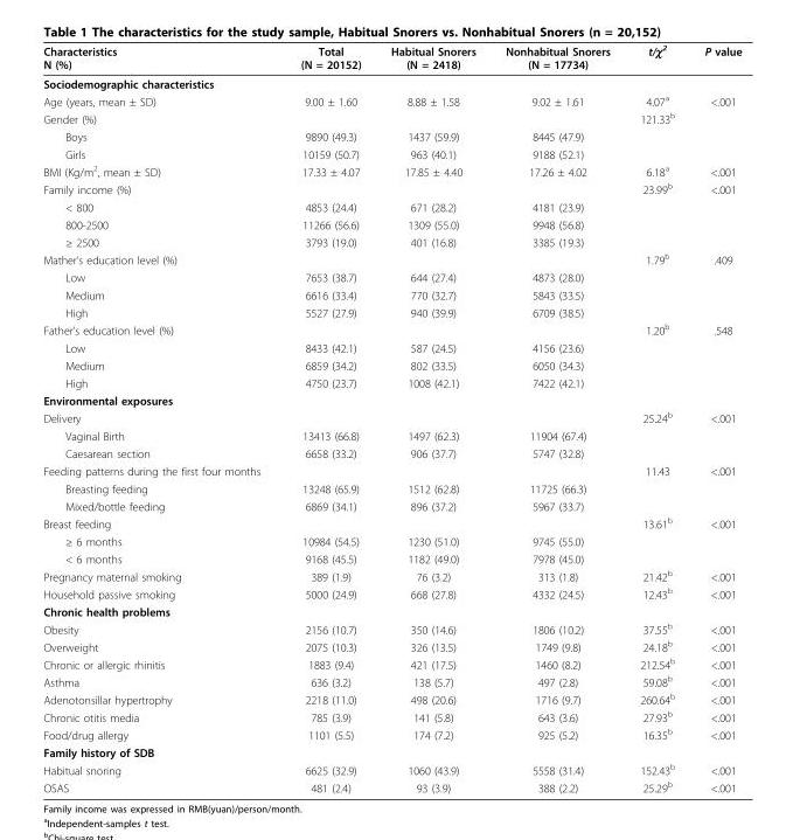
<table><thead><tr><td>Characteristics N (%)</td><td>Total (N = 20152)</td><td>Habitual Snorers (N = 2418)</td><td>Nonhabitual Snorers (N = 17734)</td><td>t/χ<sup>2</sup></td><td>P value</td></tr></thead><tbody><tr><td colspan="6">Sociodemographic characteristics</td></tr><tr><td>Age (years, mean ± SD)</td><td>9.00 ± 1.60</td><td>8.88 ± 1.58</td><td>9.02 ± 1.61</td><td>4.07<sup>a</sup></td><td>&lt;.001</td></tr><tr><td>Gender (%)</td><td></td><td></td><td></td><td>121.33<sup>b</sup></td><td></td></tr><tr><td>Boys</td><td>9890 (49.3)</td><td>1437 (59.9)</td><td>8445 (47.9)</td><td></td><td></td></tr><tr><td>Girls</td><td>10159 (50.7)</td><td>963 (40.1)</td><td>9188 (52.1)</td><td></td><td></td></tr><tr><td>BMI (Kg/m<sup>2</sup>, mean ± SD)</td><td>17.33 ± 4.07</td><td>17.85 ± 4.40</td><td>17.26 ± 4.02</td><td>6.18<sup>a</sup></td><td>&lt;.001</td></tr><tr><td>Family income (%)</td><td></td><td></td><td></td><td>23.99<sup>b</sup></td><td>&lt;.001</td></tr><tr><td>&lt; 800</td><td>4853 (24.4)</td><td>671 (28.2)</td><td>4181 (23.9)</td><td></td><td></td></tr><tr><td>800-2500</td><td>11266 (56.6)</td><td>1309 (55.0)</td><td>9948 (56.8)</td><td></td><td></td></tr><tr><td>≥ 2500</td><td>3793 (19.0)</td><td>401 (16.8)</td><td>3385 (19.3)</td><td></td><td></td></tr><tr><td>Mather’s education level (%)</td><td></td><td></td><td></td><td>1.79<sup>b</sup></td><td>.409</td></tr><tr><td>Low</td><td>7653 (38.7)</td><td>644 (27.4)</td><td>4873 (28.0)</td><td></td><td></td></tr><tr><td>Medium</td><td>6616 (33.4)</td><td>770 (32.7)</td><td>5843 (33.5)</td><td></td><td></td></tr><tr><td>High</td><td>5527 (27.9)</td><td>940 (39.9)</td><td>6709 (38.5)</td><td></td><td></td></tr><tr><td>Father’s education level (%)</td><td></td><td></td><td></td><td>1.20<sup>b</sup></td><td>.548</td></tr><tr><td>Low</td><td>8433 (42.1)</td><td>587 (24.5)</td><td>4156 (23.6)</td><td></td><td></td></tr><tr><td>Medium</td><td>6859 (34.2)</td><td>802 (33.5)</td><td>6050 (34.3)</td><td></td><td></td></tr><tr><td>High</td><td>4750 (23.7)</td><td>1008 (42.1)</td><td>7422 (42.1)</td><td></td><td></td></tr><tr><td colspan="6">Environmental exposures</td></tr><tr><td>Delivery</td><td></td><td></td><td></td><td>25.24<sup>b</sup></td><td>&lt;.001</td></tr><tr><td>Vaginal Birth</td><td>13413 (66.8)</td><td>1497 (62.3)</td><td>11904 (67.4)</td><td></td><td></td></tr><tr><td>Caesarean section</td><td>6658 (33.2)</td><td>906 (37.7)</td><td>5747 (32.8)</td><td></td><td></td></tr><tr><td>Feeding patterns during the first four months</td><td></td><td></td><td></td><td>11.43</td><td>&lt;.001</td></tr><tr><td>Breasting feeding</td><td>13248 (65.9)</td><td>1512 (62.8)</td><td>11725 (66.3)</td><td></td><td></td></tr><tr><td>Mixed/bottle feeding</td><td>6869 (34.1)</td><td>896 (37.2)</td><td>5967 (33.7)</td><td></td><td></td></tr><tr><td>Breast feeding</td><td></td><td></td><td></td><td>13.61<sup>b</sup></td><td>&lt;.001</td></tr><tr><td>≥ 6 months</td><td>10984 (54.5)</td><td>1230 (51.0)</td><td>9745 (55.0)</td><td></td><td></td></tr><tr><td>&lt; 6 months</td><td>9168 (45.5)</td><td>1182 (49.0)</td><td>7978 (45.0)</td><td></td><td></td></tr><tr><td>Pregnancy maternal smoking</td><td>389 (1.9)</td><td>76 (3.2)</td><td>313 (1.8)</td><td>21.42<sup>b</sup></td><td>&lt;.001</td></tr><tr><td>Household passive smoking</td><td>5000 (24.9)</td><td>668 (27.8)</td><td>4332 (24.5)</td><td>12.43<sup>b</sup></td><td>&lt;.001</td></tr><tr><td colspan="6">Chronic health problems</td></tr><tr><td>Obesity</td><td>2156 (10.7)</td><td>350 (14.6)</td><td>1806 (10.2)</td><td>37.55<sup>b</sup></td><td>&lt;.001</td></tr><tr><td>Overweight</td><td>2075 (10.3)</td><td>326 (13.5)</td><td>1749 (9.8)</td><td>24.18<sup>b</sup></td><td>&lt;.001</td></tr><tr><td>Chronic or allergic rhinitis</td><td>1883 (9.4)</td><td>421 (17.5)</td><td>1460 (8.2)</td><td>212.54<sup>b</sup></td><td>&lt;.001</td></tr><tr><td>Asthma</td><td>636 (3.2)</td><td>138 (5.7)</td><td>497 (2.8)</td><td>59.08<sup>b</sup></td><td>&lt;.001</td></tr><tr><td>Adenotonsillar hypertrophy</td><td>2218 (11.0)</td><td>498 (20.6)</td><td>1716 (9.7)</td><td>260.64<sup>b</sup></td><td>&lt;.001</td></tr><tr><td>Chronic otitis media</td><td>785 (3.9)</td><td>141 (5.8)</td><td>643 (3.6)</td><td>27.93<sup>b</sup></td><td>&lt;.001</td></tr><tr><td>Food/drug allergy</td><td>1101 (5.5)</td><td>174 (7.2)</td><td>925 (5.2)</td><td>16.35<sup>b</sup></td><td>&lt;.001</td></tr><tr><td colspan="6">Family history of SDB</td></tr><tr><td>Habitual snoring</td><td>6625 (32.9)</td><td>1060 (43.9)</td><td>5558 (31.4)</td><td>152.43<sup>b</sup></td><td>&lt;.001</td></tr><tr><td>OSAS</td><td>481 (2.4)</td><td>93 (3.9)</td><td>388 (2.2)</td><td>25.29<sup>b</sup></td><td>&lt;.001</td></tr></tbody></table>